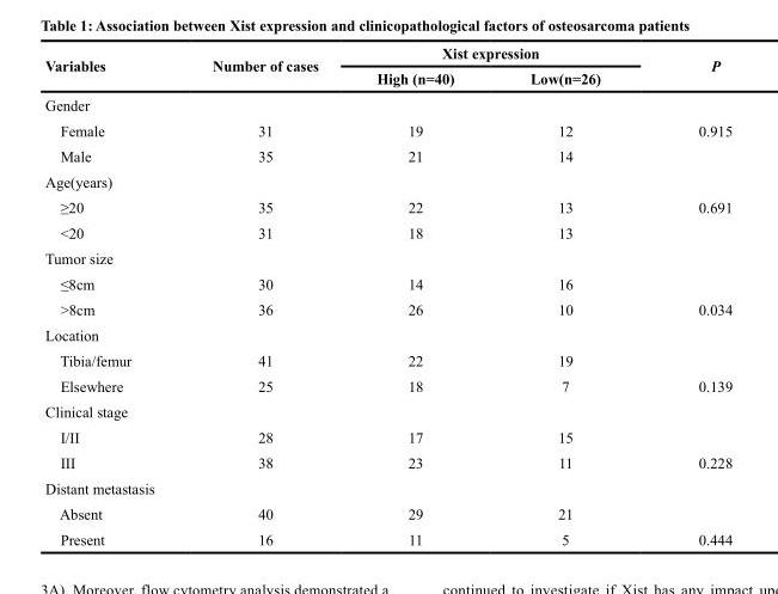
<table><thead><tr><td rowspan="2">Variables</td><td rowspan="2">Number of cases</td><td colspan="2">Xist expression</td><td rowspan="2">P</td></tr><tr><td>High (n=40)</td><td>Low(n=26)</td></tr></thead><tbody><tr><td colspan="5">Gender</td></tr><tr><td>Female</td><td>31</td><td>19</td><td>12</td><td>0.915</td></tr><tr><td>Male</td><td>35</td><td>21</td><td>14</td><td></td></tr><tr><td colspan="5">Age(years)</td></tr><tr><td>≥20</td><td>35</td><td>22</td><td>13</td><td>0.691</td></tr><tr><td>&lt;20</td><td>31</td><td>18</td><td>13</td><td></td></tr><tr><td colspan="5">Tumor size</td></tr><tr><td>≤8cm</td><td>30</td><td>14</td><td>16</td><td></td></tr><tr><td>&gt;8cm</td><td>36</td><td>26</td><td>10</td><td>0.034</td></tr><tr><td colspan="5">Location</td></tr><tr><td>Tibia/femur</td><td>41</td><td>22</td><td>19</td><td></td></tr><tr><td>Elsewhere</td><td>25</td><td>18</td><td>7</td><td>0.139</td></tr><tr><td colspan="5">Clinical stage</td></tr><tr><td>I/II</td><td>28</td><td>17</td><td>15</td><td></td></tr><tr><td>III</td><td>38</td><td>23</td><td>11</td><td>0.228</td></tr><tr><td colspan="5">Distant metastasis</td></tr><tr><td>Absent</td><td>40</td><td>29</td><td>21</td><td></td></tr><tr><td>Present</td><td>16</td><td>11</td><td>5</td><td>0.444</td></tr></tbody></table>